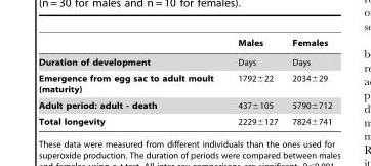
<table><thead><tr><td></td><td>Males</td><td>Females</td></tr></thead><tbody><tr><td>Duration of development</td><td>Days</td><td>Days</td></tr><tr><td>Emergence from egg sac to adult moult (maturity)</td><td>1792±22</td><td>2034±29</td></tr><tr><td>Adult period: adult - death</td><td>437±105</td><td>5790±712</td></tr><tr><td>Total longevity</td><td>2229±127</td><td>7824±741</td></tr></tbody></table>